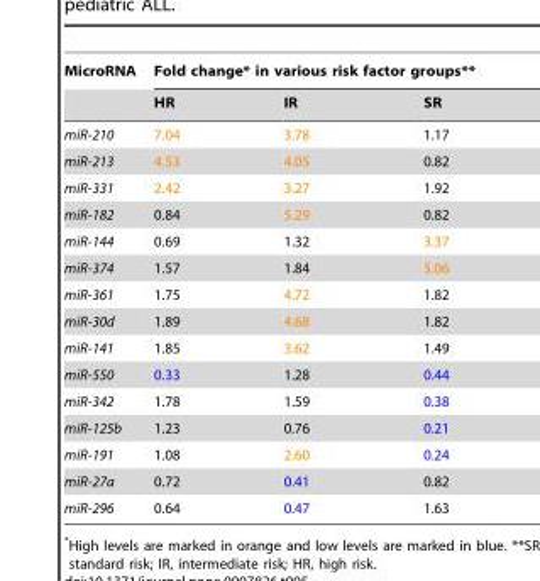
<table><thead><tr><td rowspan="2">MicroRNA</td><td colspan="3">Fold change* in various risk factor groups**</td></tr><tr><td>HR</td><td>IR</td><td>SR</td></tr></thead><tbody><tr><td>miR-210</td><td>7.04</td><td>3.78</td><td>1.17</td></tr><tr><td>miR-213</td><td>4.53</td><td>4.05</td><td>0.82</td></tr><tr><td>miR-331</td><td>2.42</td><td>3.27</td><td>1.92</td></tr><tr><td>miR-182</td><td>0.84</td><td>5.29</td><td>0.82</td></tr><tr><td>miR-144</td><td>0.69</td><td>1.32</td><td>3.37</td></tr><tr><td>miR-374</td><td>1.57</td><td>1.84</td><td>5.06</td></tr><tr><td>miR-361</td><td>1.75</td><td>4.72</td><td>1.82</td></tr><tr><td>miR-30d</td><td>1.89</td><td>4.68</td><td>1.82</td></tr><tr><td>miR-141</td><td>1.85</td><td>3.62</td><td>1.49</td></tr><tr><td>miR-550</td><td>0.33</td><td>1.28</td><td>0.44</td></tr><tr><td>miR-342</td><td>1.78</td><td>1.59</td><td>0.38</td></tr><tr><td>miR-125b</td><td>1.23</td><td>0.76</td><td>0.21</td></tr><tr><td>miR-191</td><td>1.08</td><td>2.60</td><td>0.24</td></tr><tr><td>miR-27a</td><td>0.72</td><td>0.41</td><td>0.82</td></tr><tr><td>miR-296</td><td>0.64</td><td>0.47</td><td>1.63</td></tr></tbody></table>